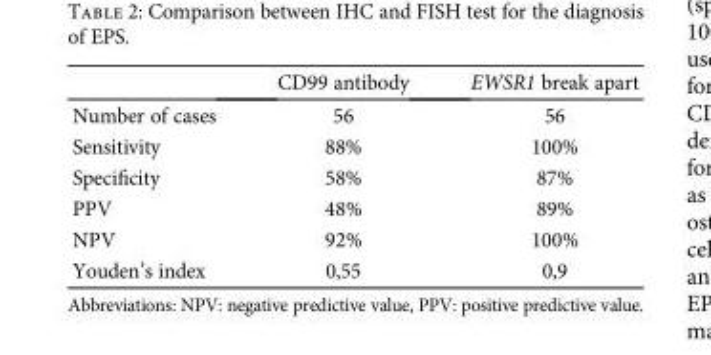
<table><thead><tr><td></td><td>CD99 antibody</td><td>EWSR1 break apart</td></tr></thead><tbody><tr><td>Number of cases</td><td>56</td><td>56</td></tr><tr><td>Sensitivity</td><td>88%</td><td>100%</td></tr><tr><td>Specificity</td><td>58%</td><td>87%</td></tr><tr><td>PPV</td><td>48%</td><td>89%</td></tr><tr><td>NPV</td><td>92%</td><td>100%</td></tr><tr><td>Youden’s index</td><td>0,55</td><td>0,9</td></tr></tbody></table>